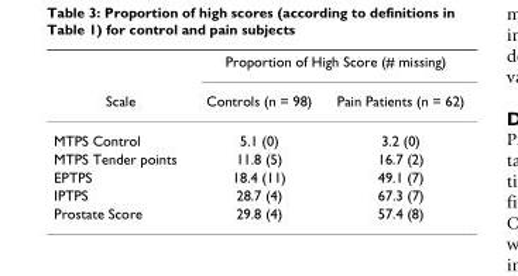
<table><thead><tr><td rowspan="2">Scale</td><td colspan="2">Proportion of High Score (# missing)</td></tr><tr><td>Controls (n = 98)</td><td>Pain Patients (n = 62)</td></tr></thead><tbody><tr><td>MTPS Control</td><td>5.1 (0)</td><td>3.2 (0)</td></tr><tr><td>MTPS Tender points</td><td>11.8 (5)</td><td>16.7 (2)</td></tr><tr><td>EPTPS</td><td>18.4 (11)</td><td>49.1 (7)</td></tr><tr><td>IPTPS</td><td>28.7 (4)</td><td>67.3 (7)</td></tr><tr><td>Prostate Score</td><td>29.8 (4)</td><td>57.4 (8)</td></tr></tbody></table>